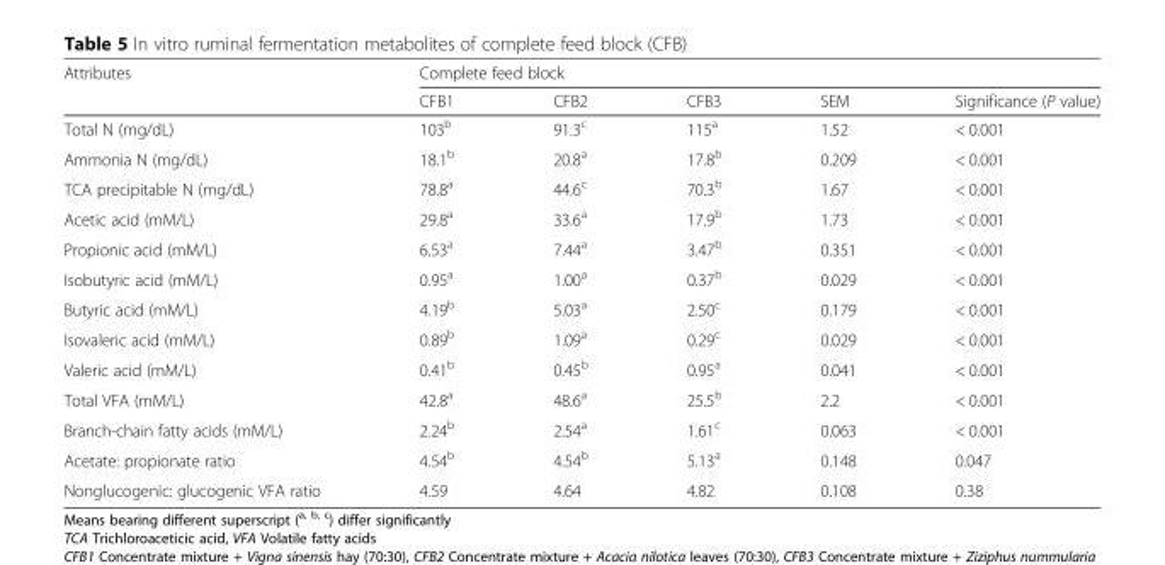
<table><thead><tr><td rowspan="2">Attributes</td><td colspan="5">Complete feed block</td></tr><tr><td>CFB1</td><td>CFB2</td><td>CFB3</td><td>SEM</td><td>Significance (P value)</td></tr></thead><tbody><tr><td>Total N (mg/dL)</td><td>103<sup>b</sup></td><td>91.3<sup>c</sup></td><td>115<sup>a</sup></td><td>1.52</td><td>&lt; 0.001</td></tr><tr><td>Ammonia N (mg/dL)</td><td>18.1<sup>b</sup></td><td>20.8<sup>a</sup></td><td>17.8<sup>b</sup></td><td>0.209</td><td>&lt; 0.001</td></tr><tr><td>TCA precipitable N (mg/dL)</td><td>78.8<sup>a</sup></td><td>44.6<sup>c</sup></td><td>70.3<sup>b</sup></td><td>1.67</td><td>&lt; 0.001</td></tr><tr><td>Acetic acid (mM/L)</td><td>29.8<sup>a</sup></td><td>33.6<sup>a</sup></td><td>17.9<sup>b</sup></td><td>1.73</td><td>&lt; 0.001</td></tr><tr><td>Propionic acid (mM/L)</td><td>6.53<sup>a</sup></td><td>7.44<sup>a</sup></td><td>3.47<sup>b</sup></td><td>0.351</td><td>&lt; 0.001</td></tr><tr><td>Isobutyric acid (mM/L)</td><td>0.95<sup>a</sup></td><td>1.00<sup>a</sup></td><td>0.37<sup>b</sup></td><td>0.029</td><td>&lt; 0.001</td></tr><tr><td>Butyric acid (mM/L)</td><td>4.19<sup>b</sup></td><td>5.03<sup>a</sup></td><td>2.50<sup>c</sup></td><td>0.179</td><td>&lt; 0.001</td></tr><tr><td>Isovaleric acid (mM/L)</td><td>0.89<sup>b</sup></td><td>1.09<sup>a</sup></td><td>0.29<sup>c</sup></td><td>0.029</td><td>&lt; 0.001</td></tr><tr><td>Valeric acid (mM/L)</td><td>0.41<sup>b</sup></td><td>0.45<sup>b</sup></td><td>0.95<sup>a</sup></td><td>0.041</td><td>&lt; 0.001</td></tr><tr><td>Total VFA (mM/L)</td><td>42.8<sup>a</sup></td><td>48.6<sup>a</sup></td><td>25.5<sup>b</sup></td><td>2.2</td><td>&lt; 0.001</td></tr><tr><td>Branch-chain fatty acids (mM/L)</td><td>2.24<sup>b</sup></td><td>2.54<sup>a</sup></td><td>1.61<sup>c</sup></td><td>0.063</td><td>&lt; 0.001</td></tr><tr><td>Acetate: propionate ratio</td><td>4.54<sup>b</sup></td><td>4.54<sup>b</sup></td><td>5.13<sup>a</sup></td><td>0.148</td><td>0.047</td></tr><tr><td>Nonglucogenic: glucogenic VFA ratio</td><td>4.59</td><td>4.64</td><td>4.82</td><td>0.108</td><td>0.38</td></tr></tbody></table>